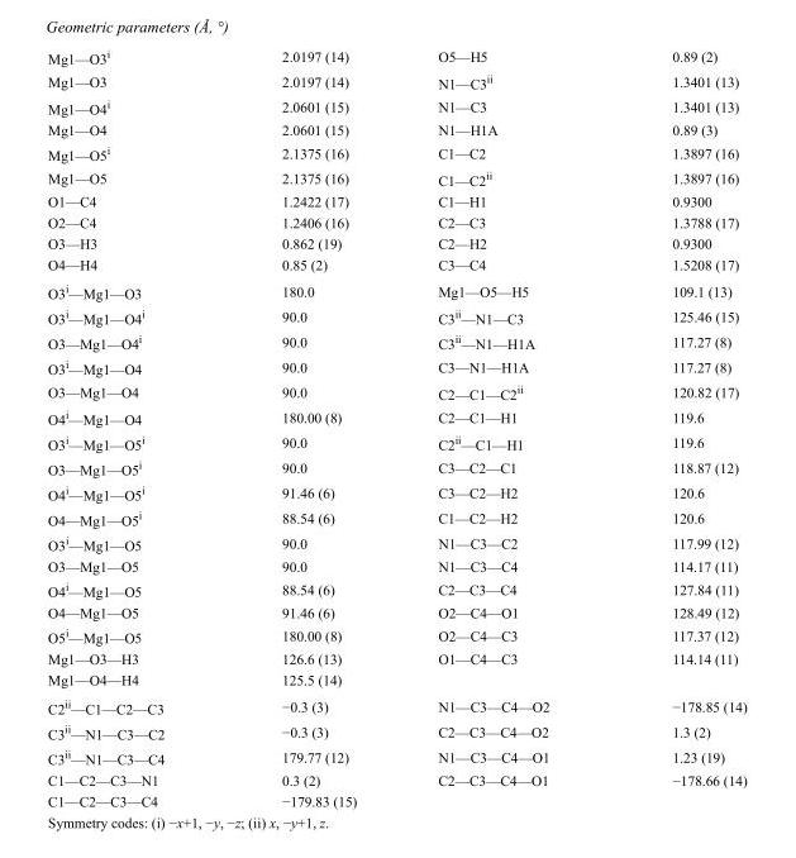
<table><tbody><tr><td>Mg1—O3<sup>i</sup></td><td>2.0197 (14)</td><td>O5—H5</td><td>0.89 (2)</td></tr><tr><td>Mg1—O3</td><td>2.0197 (14)</td><td>N1—C3<sup>ii</sup></td><td>1.3401 (13)</td></tr><tr><td>Mg1—O4<sup>i</sup></td><td>2.0601 (15)</td><td>N1—C3</td><td>1.3401 (13)</td></tr><tr><td>Mg1—O4</td><td>2.0601 (15)</td><td>N1—H1A</td><td>0.89 (3)</td></tr><tr><td>Mg1—O5<sup>i</sup></td><td>2.1375 (16)</td><td>C1—C2</td><td>1.3897 (16)</td></tr><tr><td>Mg1—O5</td><td>2.1375 (16)</td><td>C1—C2<sup>ii</sup></td><td>1.3897 (16)</td></tr><tr><td>O1—C4</td><td>1.2422 (17)</td><td>C1—H1</td><td>0.9300</td></tr><tr><td>O2—C4</td><td>1.2406 (16)</td><td>C2—C3</td><td>1.3788 (17)</td></tr><tr><td>O3—H3</td><td>0.862 (19)</td><td>C2—H2</td><td>0.9300</td></tr><tr><td>O4—H4</td><td>0.85 (2)</td><td>C3—C4</td><td>1.5208 (17)</td></tr><tr><td>O3<sup>i</sup>—Mg1—O3</td><td>180.0</td><td>Mg1—O5—H5</td><td>109.1 (13)</td></tr><tr><td>O3<sup>i</sup>—Mg1—O4<sup>i</sup></td><td>90.0</td><td>C3<sup>ii</sup>—N1—C3</td><td>125.46 (15)</td></tr><tr><td>O3—Mg1—O4<sup>i</sup></td><td>90.0</td><td>C3<sup>ii</sup>—N1—H1A</td><td>117.27 (8)</td></tr><tr><td>O3<sup>i</sup>—Mg1—O4</td><td>90.0</td><td>C3—N1—H1A</td><td>117.27 (8)</td></tr><tr><td>O3—Mg1—O4</td><td>90.0</td><td>C2—C1—C2<sup>ii</sup></td><td>120.82 (17)</td></tr><tr><td>O4<sup>i</sup>—Mg1—O4</td><td>180.00 (8)</td><td>C2—C1—H1</td><td>119.6</td></tr><tr><td>O3<sup>i</sup>—Mg1—O5<sup>i</sup></td><td>90.0</td><td>C2<sup>ii</sup>—C1—H1</td><td>119.6</td></tr><tr><td>O3—Mg1—O5<sup>i</sup></td><td>90.0</td><td>C3—C2—C1</td><td>118.87 (12)</td></tr><tr><td>O4<sup>i</sup>—Mg1—O5<sup>i</sup></td><td>91.46 (6)</td><td>C3—C2—H2</td><td>120.6</td></tr><tr><td>O4—Mg1—O5<sup>i</sup></td><td>88.54 (6)</td><td>C1—C2—H2</td><td>120.6</td></tr><tr><td>O3<sup>i</sup>—Mg1—O5</td><td>90.0</td><td>N1—C3—C2</td><td>117.99 (12)</td></tr><tr><td>O3—Mg1—O5</td><td>90.0</td><td>N1—C3—C4</td><td>114.17 (11)</td></tr><tr><td>O4<sup>i</sup>—Mg1—O5</td><td>88.54 (6)</td><td>C2—C3—C4</td><td>127.84 (11)</td></tr><tr><td>O4—Mg1—O5</td><td>91.46 (6)</td><td>O2—C4—O1</td><td>128.49 (12)</td></tr><tr><td>O5<sup>i</sup>—Mg1—O5</td><td>180.00 (8)</td><td>O2—C4—C3</td><td>117.37 (12)</td></tr><tr><td>Mg1—O3—H3</td><td>126.6 (13)</td><td>O1—C4—C3</td><td>114.14 (11)</td></tr><tr><td>Mg1—O4—H4</td><td>125.5 (14)</td><td></td><td></td></tr><tr><td>C2<sup>ii</sup>—C1—C2—C3</td><td>−0.3 (3)</td><td>N1—C3—C4—O2</td><td>−178.85 (14)</td></tr><tr><td>C3<sup>ii</sup>—N1—C3—C2</td><td>−0.3 (3)</td><td>C2—C3—C4—O2</td><td>1.3 (2)</td></tr><tr><td>C3<sup>ii</sup>—N1—C3—C4</td><td>179.77 (12)</td><td>N1—C3—C4—O1</td><td>1.23 (19)</td></tr><tr><td>C1—C2—C3—N1</td><td>0.3 (2)</td><td>C2—C3—C4—O1</td><td>−178.66 (14)</td></tr><tr><td>C1—C2—C3—C4</td><td>−179.83 (15)</td><td></td><td></td></tr></tbody></table>